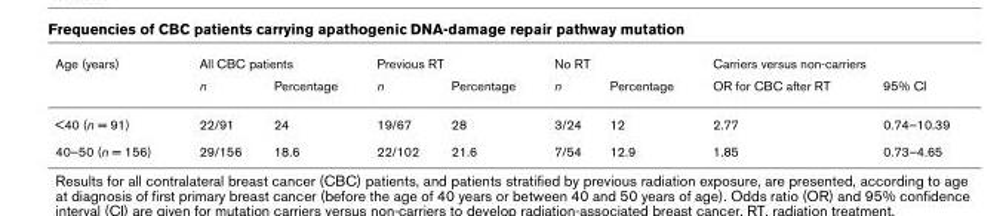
<table><thead><tr><td rowspan="2">Age (years)</td><td colspan="2">All CBC patients</td><td colspan="2">Previous RT</td><td colspan="2">No RT</td><td colspan="2">Carriers versus non-carriers</td></tr><tr><td>n</td><td>Percentage</td><td>n</td><td>Percentage</td><td>n</td><td>Percentage</td><td>OR for CBC after RT</td><td>95% CI</td></tr></thead><tbody><tr><td>&lt;40 (n = 91)</td><td>22/91</td><td>24</td><td>19/67</td><td>28</td><td>3/24</td><td>12</td><td>2.77</td><td>0.74–10.39</td></tr><tr><td>40–50 (n = 156)</td><td>29/156</td><td>18.6</td><td>22/102</td><td>21.6</td><td>7/54</td><td>12.9</td><td>1.85</td><td>0.73–4.65</td></tr></tbody></table>